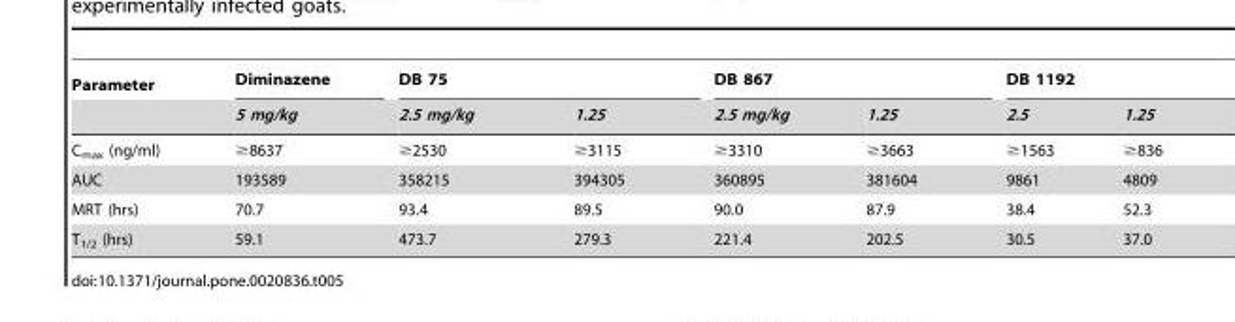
<table><thead><tr><td rowspan="2">Parameter</td><td rowspan="2">Diminazene 5 mg/kg</td><td colspan="2">DB 75</td><td colspan="2">DB 867</td><td colspan="2">DB 1192</td></tr><tr><td>2.5 mg/kg</td><td>1.25</td><td>2.5 mg/kg</td><td>1.25</td><td>2.5</td><td>1.25</td></tr></thead><tbody><tr><td>C<sub>max</sub> (ng/ml)</td><td>≥8637</td><td>≥2530</td><td>≥3115</td><td>≥3310</td><td>≥3663</td><td>≥1563</td><td>≥836</td></tr><tr><td>AUC</td><td>193589</td><td>358215</td><td>394305</td><td>360895</td><td>381604</td><td>9861</td><td>4809</td></tr><tr><td>MRT (hrs)</td><td>70.7</td><td>93.4</td><td>89.5</td><td>90.0</td><td>87.9</td><td>38.4</td><td>52.3</td></tr><tr><td>T<sub>1/2</sub> (hrs)</td><td>59.1</td><td>473.7</td><td>279.3</td><td>221.4</td><td>202.5</td><td>30.5</td><td>37.0</td></tr></tbody></table>